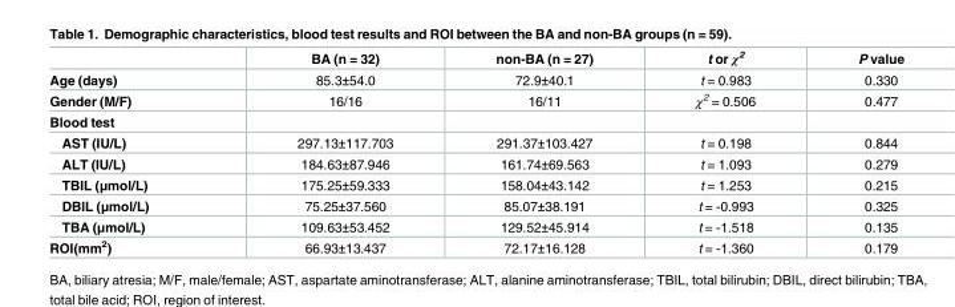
<table><thead><tr><td></td><td>BA (n = 32)</td><td>non-BA (n = 27)</td><td>t or χ<sup>2</sup></td><td>P value</td></tr></thead><tbody><tr><td>Age (days)</td><td>85.3±54.0</td><td>72.9±40.1</td><td>t = 0.983</td><td>0.330</td></tr><tr><td>Gender (M/F)</td><td>16/16</td><td>16/11</td><td>χ<sup>2</sup> = 0.506</td><td>0.477</td></tr><tr><td colspan="5">Blood test</td></tr><tr><td>AST (IU/L)</td><td>297.13±117.703</td><td>291.37±103.427</td><td>t = 0.198</td><td>0.844</td></tr><tr><td>ALT (IU/L)</td><td>184.63±87.946</td><td>161.74±69.563</td><td>t = 1.093</td><td>0.279</td></tr><tr><td>TBIL (μmol/L)</td><td>175.25±59.333</td><td>158.04±43.142</td><td>t = 1.253</td><td>0.215</td></tr><tr><td>DBIL (μmol/L)</td><td>75.25±37.560</td><td>85.07±38.191</td><td>t = -0.993</td><td>0.325</td></tr><tr><td>TBA (μmol/L)</td><td>109.63±53.452</td><td>129.52±45.914</td><td>t = -1.518</td><td>0.135</td></tr><tr><td>ROI(mm<sup>2</sup>)</td><td>66.93±13.437</td><td>72.17±16.128</td><td>t = -1.360</td><td>0.179</td></tr></tbody></table>